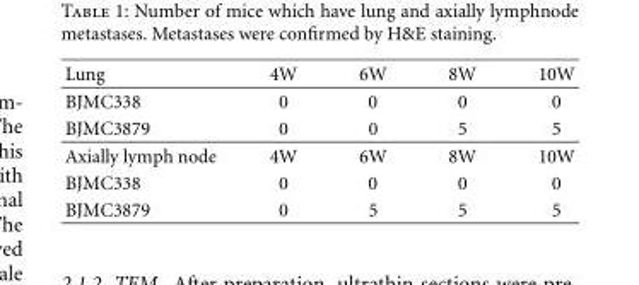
<table><thead><tr><td>Lung</td><td>4W</td><td>6W</td><td>8W</td><td>10W</td></tr></thead><tbody><tr><td>BJMC338</td><td>0</td><td>0</td><td>0</td><td>0</td></tr><tr><td>BJMC3879</td><td>0</td><td>0</td><td>5</td><td>5</td></tr><tr><td>Axially lymph node</td><td>4W</td><td>6W</td><td>8W</td><td>10W</td></tr><tr><td>BJMC338</td><td>0</td><td>0</td><td>0</td><td>0</td></tr><tr><td>BJMC3879</td><td>0</td><td>5</td><td>5</td><td>5</td></tr></tbody></table>